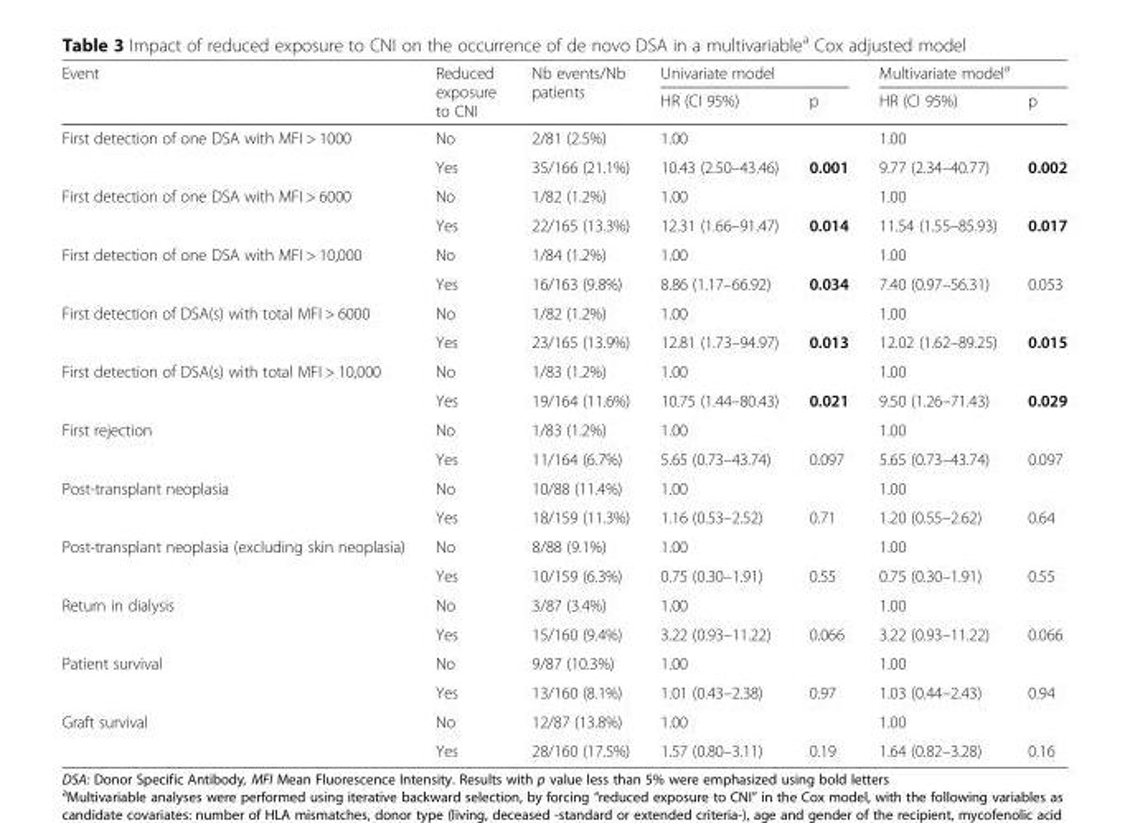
<table><thead><tr><td rowspan="2">Event</td><td rowspan="2">Reduced exposure to CNI</td><td rowspan="2">Nb events/Nb patients</td><td colspan="2">Univariate model</td><td colspan="2">Multivariate model<sup>a</sup></td></tr><tr><td>HR (CI 95%)</td><td>p</td><td>HR (CI 95%)</td><td>p</td></tr></thead><tbody><tr><td rowspan="2">First detection of one DSA with MFI &gt; 1000</td><td>No</td><td>2/81 (2.5%)</td><td>1.00</td><td></td><td>1.00</td><td></td></tr><tr><td>Yes</td><td>35/166 (21.1%)</td><td>10.43 (2.50–43.46)</td><td>0.001</td><td>9.77 (2.34–40.77)</td><td>0.002</td></tr><tr><td rowspan="2">First detection of one DSA with MFI &gt; 6000</td><td>No</td><td>1/82 (1.2%)</td><td>1.00</td><td></td><td>1.00</td><td></td></tr><tr><td>Yes</td><td>22/165 (13.3%)</td><td>12.31 (1.66–91.47)</td><td>0.014</td><td>11.54 (1.55–85.93)</td><td>0.017</td></tr><tr><td rowspan="2">First detection of one DSA with MFI &gt; 10,000</td><td>No</td><td>1/84 (1.2%)</td><td>1.00</td><td></td><td>1.00</td><td></td></tr><tr><td>Yes</td><td>16/163 (9.8%)</td><td>8.86 (1.17–66.92)</td><td>0.034</td><td>7.40 (0.97–56.31)</td><td>0.053</td></tr><tr><td rowspan="2">First detection of DSA(s) with total MFI &gt; 6000</td><td>No</td><td>1/82 (1.2%)</td><td>1.00</td><td></td><td>1.00</td><td></td></tr><tr><td>Yes</td><td>23/165 (13.9%)</td><td>12.81 (1.73–94.97)</td><td>0.013</td><td>12.02 (1.62–89.25)</td><td>0.015</td></tr><tr><td rowspan="2">First detection of DSA(s) with total MFI &gt; 10,000</td><td>No</td><td>1/83 (1.2%)</td><td>1.00</td><td></td><td>1.00</td><td></td></tr><tr><td>Yes</td><td>19/164 (11.6%)</td><td>10.75 (1.44–80.43)</td><td>0.021</td><td>9.50 (1.26–71.43)</td><td>0.029</td></tr><tr><td rowspan="2">First rejection</td><td>No</td><td>1/83 (1.2%)</td><td>1.00</td><td></td><td>1.00</td><td></td></tr><tr><td>Yes</td><td>11/164 (6.7%)</td><td>5.65 (0.73–43.74)</td><td>0.097</td><td>5.65 (0.73–43.74)</td><td>0.097</td></tr><tr><td rowspan="2">Post-transplant neoplasia</td><td>No</td><td>10/88 (11.4%)</td><td>1.00</td><td></td><td>1.00</td><td></td></tr><tr><td>Yes</td><td>18/159 (11.3%)</td><td>1.16 (0.53–2.52)</td><td>0.71</td><td>1.20 (0.55–2.62)</td><td>0.64</td></tr><tr><td rowspan="2">Post-transplant neoplasia (excluding skin neoplasia)</td><td>No</td><td>8/88 (9.1%)</td><td>1.00</td><td></td><td>1.00</td><td></td></tr><tr><td>Yes</td><td>10/159 (6.3%)</td><td>0.75 (0.30–1.91)</td><td>0.55</td><td>0.75 (0.30–1.91)</td><td>0.55</td></tr><tr><td rowspan="2">Return in dialysis</td><td>No</td><td>3/87 (3.4%)</td><td>1.00</td><td></td><td>1.00</td><td></td></tr><tr><td>Yes</td><td>15/160 (9.4%)</td><td>3.22 (0.93–11.22)</td><td>0.066</td><td>3.22 (0.93–11.22)</td><td>0.066</td></tr><tr><td rowspan="2">Patient survival</td><td>No</td><td>9/87 (10.3%)</td><td>1.00</td><td></td><td>1.00</td><td></td></tr><tr><td>Yes</td><td>13/160 (8.1%)</td><td>1.01 (0.43–2.38)</td><td>0.97</td><td>1.03 (0.44–2.43)</td><td>0.94</td></tr><tr><td rowspan="2">Graft survival</td><td>No</td><td>12/87 (13.8%)</td><td>1.00</td><td></td><td>1.00</td><td></td></tr><tr><td>Yes</td><td>28/160 (17.5%)</td><td>1.57 (0.80–3.11)</td><td>0.19</td><td>1.64 (0.82–3.28)</td><td>0.16</td></tr></tbody></table>